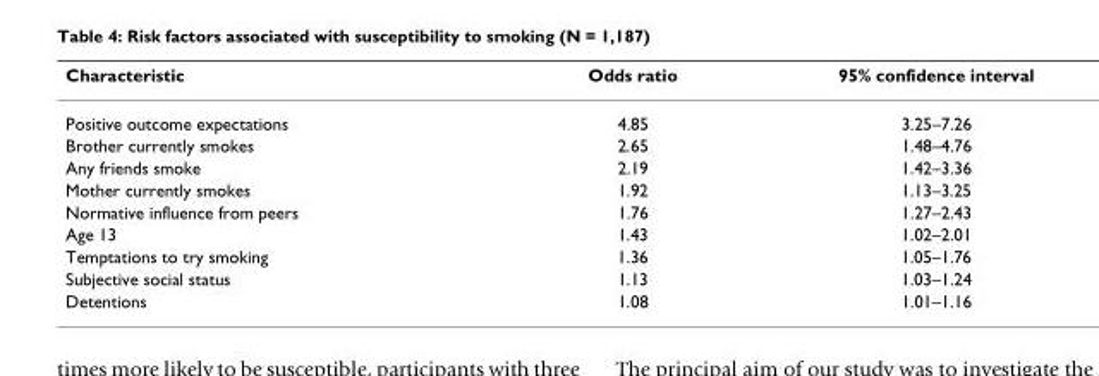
<table><thead><tr><td>Characteristic</td><td>Odds ratio</td><td>95% confidence interval</td></tr></thead><tbody><tr><td>Positive outcome expectations</td><td>4.85</td><td>3.25–7.26</td></tr><tr><td>Brother currently smokes</td><td>2.65</td><td>1.48–4.76</td></tr><tr><td>Any friends smoke</td><td>2.19</td><td>1.42–3.36</td></tr><tr><td>Mother currently smokes</td><td>1.92</td><td>1.13–3.25</td></tr><tr><td>Normative influence from peers</td><td>1.76</td><td>1.27–2.43</td></tr><tr><td>Age 13</td><td>1.43</td><td>1.02–2.01</td></tr><tr><td>Temptations to try smoking</td><td>1.36</td><td>1.05–1.76</td></tr><tr><td>Subjective social status</td><td>1.13</td><td>1.03–1.24</td></tr><tr><td>Detentions</td><td>1.08</td><td>1.01–1.16</td></tr></tbody></table>